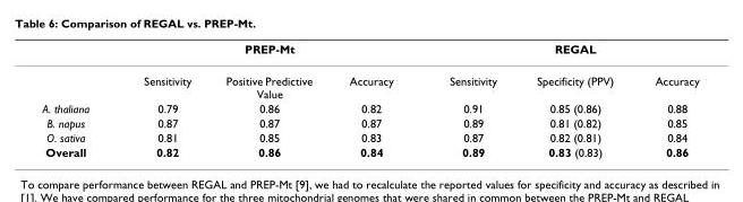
<table><thead><tr><td rowspan="2"></td><td colspan="3">PREP-Mt</td><td colspan="3">REGAL</td></tr><tr><td>Sensitivity</td><td>Positive Predictive Value</td><td>Accuracy</td><td>Sensitivity</td><td>Specificity (PPV)</td><td>Accuracy</td></tr></thead><tbody><tr><td>A. thaliana</td><td>0.79</td><td>0.86</td><td>0.82</td><td>0.91</td><td>0.85 (0.86)</td><td>0.88</td></tr><tr><td>B. napus</td><td>0.87</td><td>0.87</td><td>0.87</td><td>0.89</td><td>0.81 (0.82)</td><td>0.85</td></tr><tr><td>O. sativa</td><td>0.81</td><td>0.85</td><td>0.83</td><td>0.87</td><td>0.82 (0.81)</td><td>0.84</td></tr><tr><td>Overall</td><td>0.82</td><td>0.86</td><td>0.84</td><td>0.89</td><td>0.83 (0.83)</td><td>0.86</td></tr></tbody></table>